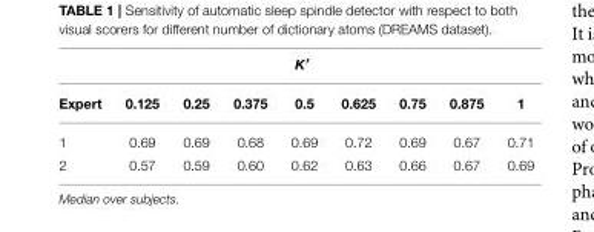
<table><thead><tr><td colspan="9">K′</td></tr><tr><td>Expert</td><td>0.125</td><td>0.25</td><td>0.375</td><td>0.5</td><td>0.625</td><td>0.75</td><td>0.875</td><td>1</td></tr></thead><tbody><tr><td>1</td><td>0.69</td><td>0.69</td><td>0.68</td><td>0.69</td><td>0.72</td><td>0.69</td><td>0.67</td><td>0.71</td></tr><tr><td>2</td><td>0.57</td><td>0.59</td><td>0.60</td><td>0.62</td><td>0.63</td><td>0.66</td><td>0.67</td><td>0.69</td></tr></tbody></table>